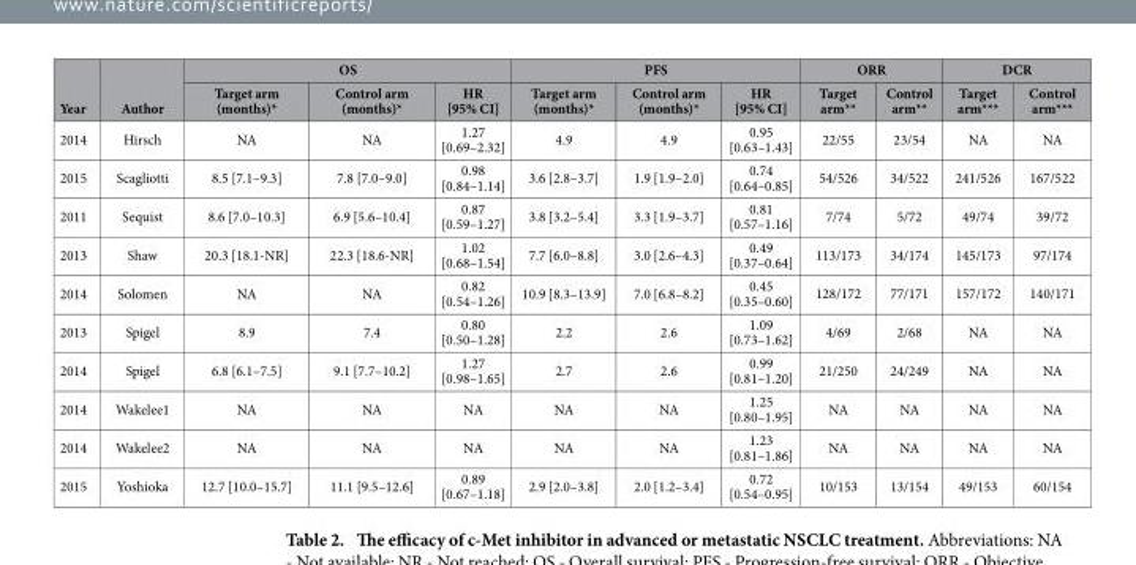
<table><thead><tr><td rowspan="2">Year</td><td rowspan="2">Author</td><td colspan="3">OS</td><td colspan="3">PFS</td><td colspan="2">ORR</td><td colspan="2">DCR</td></tr><tr><td>Target arm (months)*</td><td>Control arm (months)*</td><td>HR [95% CI]</td><td>Target arm (months)*</td><td>Control arm (months)*</td><td>HR [95% CI]</td><td>Target arm**</td><td>Control arm**</td><td>Target arm***</td><td>Control arm***</td></tr></thead><tbody><tr><td>2014</td><td>Hirsch</td><td>NA</td><td>NA</td><td>1.27 [0.69–2.32]</td><td>4.9</td><td>4.9</td><td>0.95 [0.63–1.43]</td><td>22/55</td><td>23/54</td><td>NA</td><td>NA</td></tr><tr><td>2015</td><td>Scagliotti</td><td>8.5 [7.1–9.3]</td><td>7.8 [7.0–9.0]</td><td>0.98 [0.84–1.14]</td><td>3.6 [2.8–3.7]</td><td>1.9 [1.9–2.0]</td><td>0.74 [0.64–0.85]</td><td>54/526</td><td>34/522</td><td>241/526</td><td>167/522</td></tr><tr><td>2011</td><td>Sequist</td><td>8.6 [7.0–10.3]</td><td>6.9 [5.6–10.4]</td><td>0.87 [0.59–1.27]</td><td>3.8 [3.2–5.4]</td><td>3.3 [1.9–3.7]</td><td>0.81 [0.57–1.16]</td><td>7/74</td><td>5/72</td><td>49/74</td><td>39/72</td></tr><tr><td>2013</td><td>Shaw</td><td>20.3 [18.1-NR]</td><td>22.3 [18.6-NR]</td><td>1.02 [0.68–1.54]</td><td>7.7 [6.0–8.8]</td><td>3.0 [2.6–4.3]</td><td>0.49 [0.37–0.64]</td><td>113/173</td><td>34/174</td><td>145/173</td><td>97/174</td></tr><tr><td>2014</td><td>Solomen</td><td>NA</td><td>NA</td><td>0.82 [0.54–1.26]</td><td>10.9 [8.3–13.9]</td><td>7.0 [6.8–8.2]</td><td>0.45 [0.35–0.60]</td><td>128/172</td><td>77/171</td><td>157/172</td><td>140/171</td></tr><tr><td>2013</td><td>Spigel</td><td>8.9</td><td>7.4</td><td>0.80 [0.50–1.28]</td><td>2.2</td><td>2.6</td><td>1.09 [0.73–1.62]</td><td>4/69</td><td>2/68</td><td>NA</td><td>NA</td></tr><tr><td>2014</td><td>Spigel</td><td>6.8 [6.1–7.5]</td><td>9.1 [7.7–10.2]</td><td>1.27 [0.98–1.65]</td><td>2.7</td><td>2.6</td><td>0.99 [0.81–1.20]</td><td>21/250</td><td>24/249</td><td>NA</td><td>NA</td></tr><tr><td>2014</td><td>Wakelee1</td><td>NA</td><td>NA</td><td>NA</td><td>NA</td><td>NA</td><td>1.25 [0.80–1.95]</td><td>NA</td><td>NA</td><td>NA</td><td>NA</td></tr><tr><td>2014</td><td>Wakelee2</td><td>NA</td><td>NA</td><td>NA</td><td>NA</td><td>NA</td><td>1.23 [0.81–1.86]</td><td>NA</td><td>NA</td><td>NA</td><td>NA</td></tr><tr><td>2015</td><td>Yoshioka</td><td>12.7 [10.0–15.7]</td><td>11.1 [9.5–12.6]</td><td>0.89 [0.67–1.18]</td><td>2.9 [2.0–3.8]</td><td>2.0 [1.2–3.4]</td><td>0.72 [0.54–0.95]</td><td>10/153</td><td>13/154</td><td>49/153</td><td>60/154</td></tr></tbody></table>